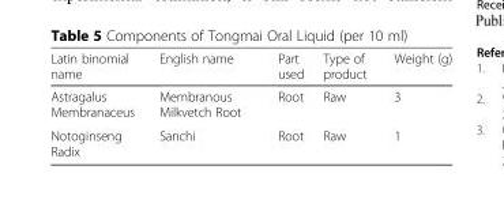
<table><thead><tr><td>Latin binomial name</td><td>English name</td><td>Part used</td><td>Type of product</td><td>Weight (g)</td></tr></thead><tbody><tr><td>Astragalus Membranaceus</td><td>Membranous Milkvetch Root</td><td>Root</td><td>Raw</td><td>3</td></tr><tr><td>Notoginseng Radix</td><td>Sanchi</td><td>Root</td><td>Raw</td><td>1</td></tr></tbody></table>